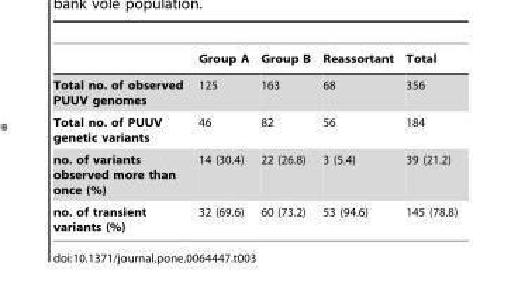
<table><thead><tr><td></td><td>Group A</td><td>Group B</td><td>Reassortant</td><td>Total</td></tr></thead><tbody><tr><td>Total no. of observed PUUV genomes</td><td>125</td><td>163</td><td>68</td><td>356</td></tr><tr><td>Total no. of PUUV genetic variants</td><td>46</td><td>82</td><td>56</td><td>184</td></tr><tr><td>no. of variants observed more than once (%)</td><td>14 (30.4)</td><td>22 (26.8)</td><td>3 (5.4)</td><td>39 (21.2)</td></tr><tr><td>no. of transient variants (%)</td><td>32 (69.6)</td><td>60 (73.2)</td><td>53 (94.6)</td><td>145 (78.8)</td></tr></tbody></table>